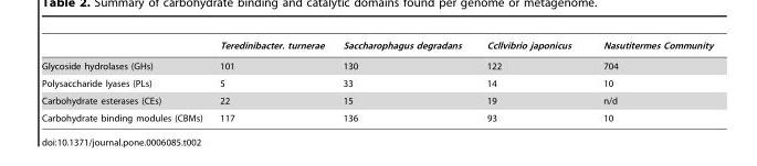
<table><thead><tr><td></td><td>Teredinibacter. turnerae</td><td>Saccharophagus degradans</td><td>Ccllvibrio japonicus</td><td>Nasutitermes Community</td></tr></thead><tbody><tr><td>Glycoside hydrolases (GHs)</td><td>101</td><td>130</td><td>122</td><td>704</td></tr><tr><td>Polysaccharide lyases (PLs)</td><td>5</td><td>33</td><td>14</td><td>10</td></tr><tr><td>Carbohydrate esterases (CEs)</td><td>22</td><td>15</td><td>19</td><td>n/d</td></tr><tr><td>Carbohydrate binding modules (CBMs)</td><td>117</td><td>136</td><td>93</td><td>10</td></tr></tbody></table>